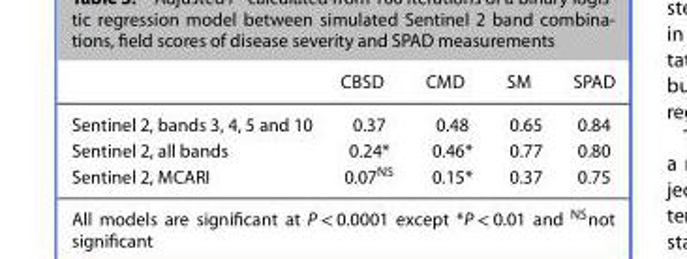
<table><thead><tr><td></td><td>CBSD</td><td>CMD</td><td>SM</td><td>SPAD</td></tr></thead><tbody><tr><td>Sentinel 2, bands 3, 4, 5 and 10</td><td>0.37</td><td>0.48</td><td>0.65</td><td>0.84</td></tr><tr><td>Sentinel 2, all bands</td><td>0.24*</td><td>0.46*</td><td>0.77</td><td>0.80</td></tr><tr><td>Sentinel 2, MCARI</td><td>0.07<sup>NS</sup></td><td>0.15*</td><td>0.37</td><td>0.75</td></tr></tbody></table>